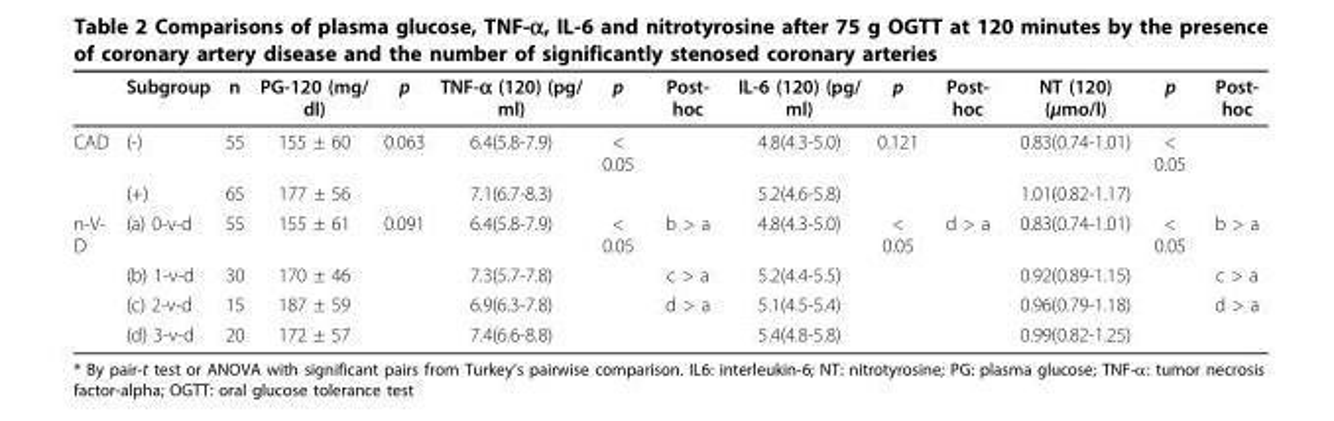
<table><thead><tr><td></td><td>Subgroup</td><td>n</td><td>PG-120 (mg/ dl)</td><td>p</td><td>TNF-α (120) (pg/ ml)</td><td>p</td><td>Post- hoc</td><td>IL-6 (120) (pg/ ml)</td><td>p</td><td>Post- hoc</td><td>NT (120) (μmo/l)</td><td>p</td><td>Post- hoc</td></tr></thead><tbody><tr><td rowspan="2">CAD</td><td>(-)</td><td>55</td><td>155 ± 60</td><td>0.063</td><td>6.4(5.8-7.9)</td><td>&lt; 0.05</td><td></td><td>4.8(4.3-5.0)</td><td>0.121</td><td></td><td>0.83(0.74-1.01)</td><td>&lt; 0.05</td><td></td></tr><tr><td>(+)</td><td>65</td><td>177 ± 56</td><td></td><td>7.1(6.7-8.3)</td><td></td><td></td><td>5.2(4.6-5.8)</td><td></td><td></td><td>1.01(0.82-1.17)</td><td></td><td></td></tr><tr><td rowspan="4">n-V- D</td><td>(a) 0-v-d</td><td>55</td><td>155 ± 61</td><td>0.091</td><td>6.4(5.8-7.9)</td><td>&lt; 0.05</td><td>b &gt; a</td><td>4.8(4.3-5.0)</td><td>&lt; 0.05</td><td>d &gt; a</td><td>0.83(0.74-1.01)</td><td>&lt; 0.05</td><td>b &gt; a</td></tr><tr><td>(b) 1-v-d</td><td>30</td><td>170 ± 46</td><td></td><td>7.3(5.7-7.8)</td><td></td><td>c &gt; a</td><td>5.2(4.4-5.5)</td><td></td><td></td><td>0.92(0.89-1.15)</td><td></td><td>c &gt; a</td></tr><tr><td>(c) 2-v-d</td><td>15</td><td>187 ± 59</td><td></td><td>6.9(6.3-7.8)</td><td></td><td>d &gt; a</td><td>5.1(4.5-5.4)</td><td></td><td></td><td>0.96(0.79-1.18)</td><td></td><td>d &gt; a</td></tr><tr><td>(d) 3-v-d</td><td>20</td><td>172 ± 57</td><td></td><td>7.4(6.6-8.8)</td><td></td><td></td><td>5.4(4.8-5.8)</td><td></td><td></td><td>0.99(0.82-1.25)</td><td></td><td></td></tr></tbody></table>